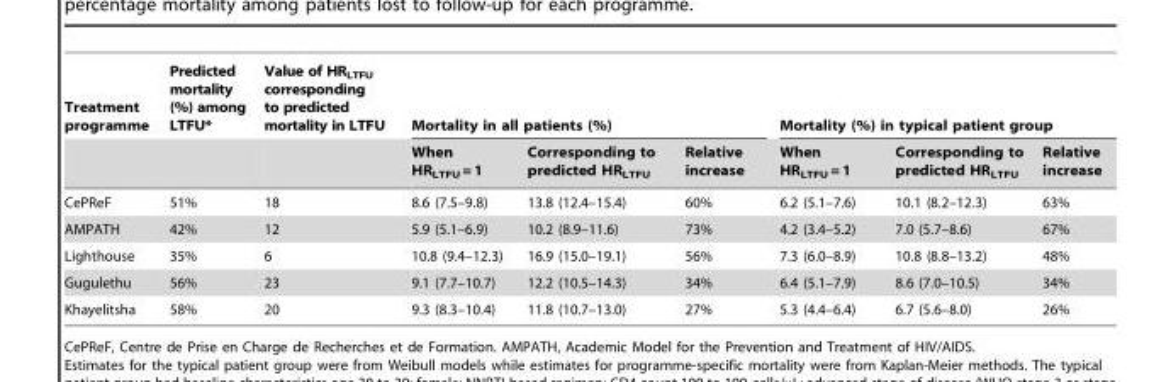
<table><thead><tr><td rowspan="2">Treatment programme</td><td rowspan="2">Predicted mortality (%) among LTFU*</td><td rowspan="2">Value of HR<sub>LTFU</sub> corresponding to predicted mortality in LTFU</td><td colspan="3">Mortality in all patients (%)</td><td colspan="3">Mortality (%) in typical patient group</td></tr><tr><td>When HR<sub>LTFU</sub> = 1</td><td>Corresponding to predicted HR<sub>LTFU</sub></td><td>Relative increase</td><td>When HR<sub>LTFU</sub> = 1</td><td>Corresponding to predicted HR<sub>LTFU</sub></td><td>Relative increase</td></tr></thead><tbody><tr><td>CePReF</td><td>51%</td><td>18</td><td>8.6 (7.5–9.8)</td><td>13.8 (12.4–15.4)</td><td>60%</td><td>6.2 (5.1–7.6)</td><td>10.1 (8.2–12.3)</td><td>63%</td></tr><tr><td>AMPATH</td><td>42%</td><td>12</td><td>5.9 (5.1–6.9)</td><td>10.2 (8.9–11.6)</td><td>73%</td><td>4.2 (3.4–5.2)</td><td>7.0 (5.7–8.6)</td><td>67%</td></tr><tr><td>Lighthouse</td><td>35%</td><td>6</td><td>10.8 (9.4–12.3)</td><td>16.9 (15.0–19.1)</td><td>56%</td><td>7.3 (6.0–8.9)</td><td>10.8 (8.8–13.2)</td><td>48%</td></tr><tr><td>Gugulethu</td><td>56%</td><td>23</td><td>9.1 (7.7–10.7)</td><td>12.2 (10.5–14.3)</td><td>34%</td><td>6.4 (5.1–7.9)</td><td>8.6 (7.0–10.5)</td><td>34%</td></tr><tr><td>Khayelitsha</td><td>58%</td><td>20</td><td>9.3 (8.3–10.4)</td><td>11.8 (10.7–13.0)</td><td>27%</td><td>5.3 (4.4–6.4)</td><td>6.7 (5.6–8.0)</td><td>26%</td></tr></tbody></table>